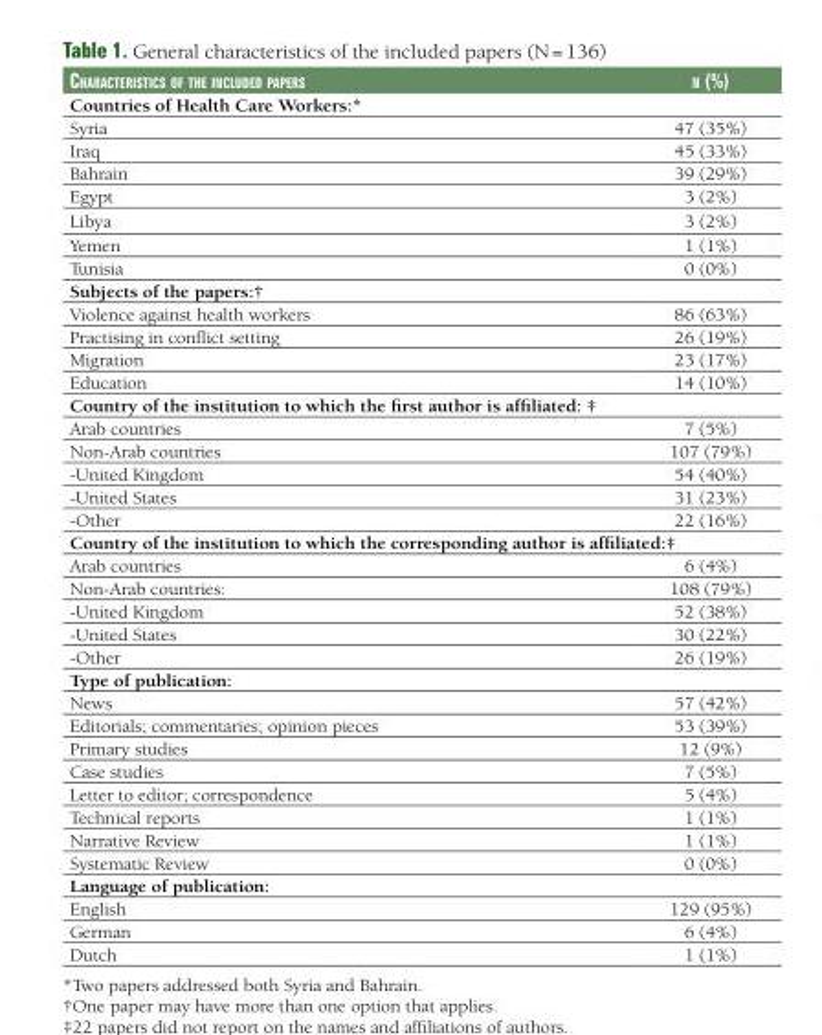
<table><thead><tr><td>CharaCteristiCs of the inCluded papers</td><td>n (%)</td></tr></thead><tbody><tr><td colspan="2">Countries of Health Care Workers:*</td></tr><tr><td>Syria</td><td>47 (35%)</td></tr><tr><td>Iraq</td><td>45 (33%)</td></tr><tr><td>Bahrain</td><td>39 (29%)</td></tr><tr><td>Egypt</td><td>3 (2%)</td></tr><tr><td>Libya</td><td>3 (2%)</td></tr><tr><td>Yemen</td><td>1 (1%)</td></tr><tr><td>Tunisia</td><td>0 (0%)</td></tr><tr><td colspan="2">Subjects of the papers:†</td></tr><tr><td>Violence against health workers</td><td>86 (63%)</td></tr><tr><td>Practising in conflict setting</td><td>26 (19%)</td></tr><tr><td>Migration</td><td>23 (17%)</td></tr><tr><td>Education</td><td>14 (10%)</td></tr><tr><td colspan="2">Country of the institution to which the first author is affiliated: ‡</td></tr><tr><td>Arab countries</td><td>7 (5%)</td></tr><tr><td>Non-Arab countries</td><td>107 (79%)</td></tr><tr><td>-United Kingdom</td><td>54 (40%)</td></tr><tr><td>-United States</td><td>31 (23%)</td></tr><tr><td>-Other</td><td>22 (16%)</td></tr><tr><td colspan="2">Country of the institution to which the corresponding author is affiliated:‡</td></tr><tr><td>Arab countries</td><td>6 (4%)</td></tr><tr><td>Non-Arab countries:</td><td>108 (79%)</td></tr><tr><td>-United Kingdom</td><td>52 (38%)</td></tr><tr><td>-United States</td><td>30 (22%)</td></tr><tr><td>-Other</td><td>26 (19%)</td></tr><tr><td colspan="2">Type of publication:</td></tr><tr><td>News</td><td>57 (42%)</td></tr><tr><td>Editorials; commentaries; opinion pieces</td><td>53 (39%)</td></tr><tr><td>Primary studies</td><td>12 (9%)</td></tr><tr><td>Case studies</td><td>7 (5%)</td></tr><tr><td>Letter to editor; correspondence</td><td>5 (4%)</td></tr><tr><td>Technical reports</td><td>1 (1%)</td></tr><tr><td>Narrative Review</td><td>1 (1%)</td></tr><tr><td>Systematic Review</td><td>0 (0%)</td></tr><tr><td colspan="2">Language of publication:</td></tr><tr><td>English</td><td>129 (95%)</td></tr><tr><td>German</td><td>6 (4%)</td></tr><tr><td>Dutch</td><td>1 (1%)</td></tr></tbody></table>